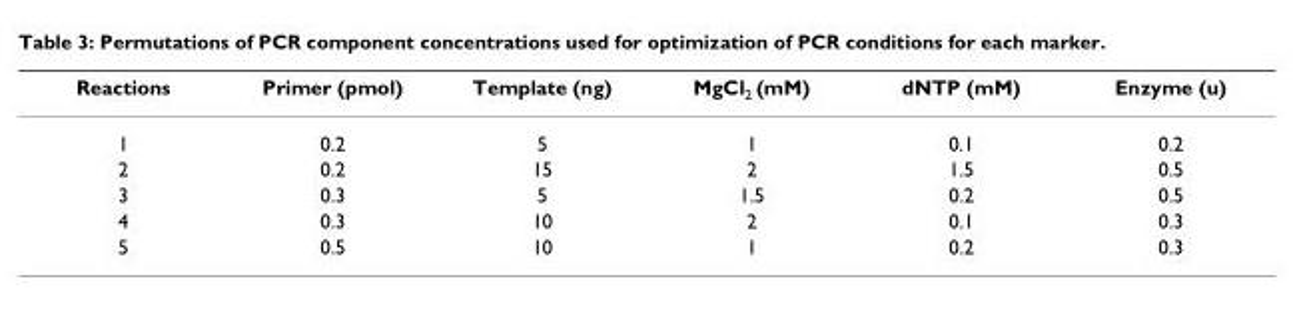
<table><thead><tr><td>Reactions</td><td>Primer (pmol)</td><td>Template (ng)</td><td>MgCl2 (mM)</td><td>dNTP (mM)</td><td>Enzyme (u)</td></tr></thead><tbody><tr><td>1</td><td>0.2</td><td>5</td><td>1</td><td>0.1</td><td>0.2</td></tr><tr><td>2</td><td>0.2</td><td>15</td><td>2</td><td>1.5</td><td>0.5</td></tr><tr><td>3</td><td>0.3</td><td>5</td><td>1.5</td><td>0.2</td><td>0.5</td></tr><tr><td>4</td><td>0.3</td><td>10</td><td>2</td><td>0.1</td><td>0.3</td></tr><tr><td>5</td><td>0.5</td><td>10</td><td>1</td><td>0.2</td><td>0.3</td></tr></tbody></table>